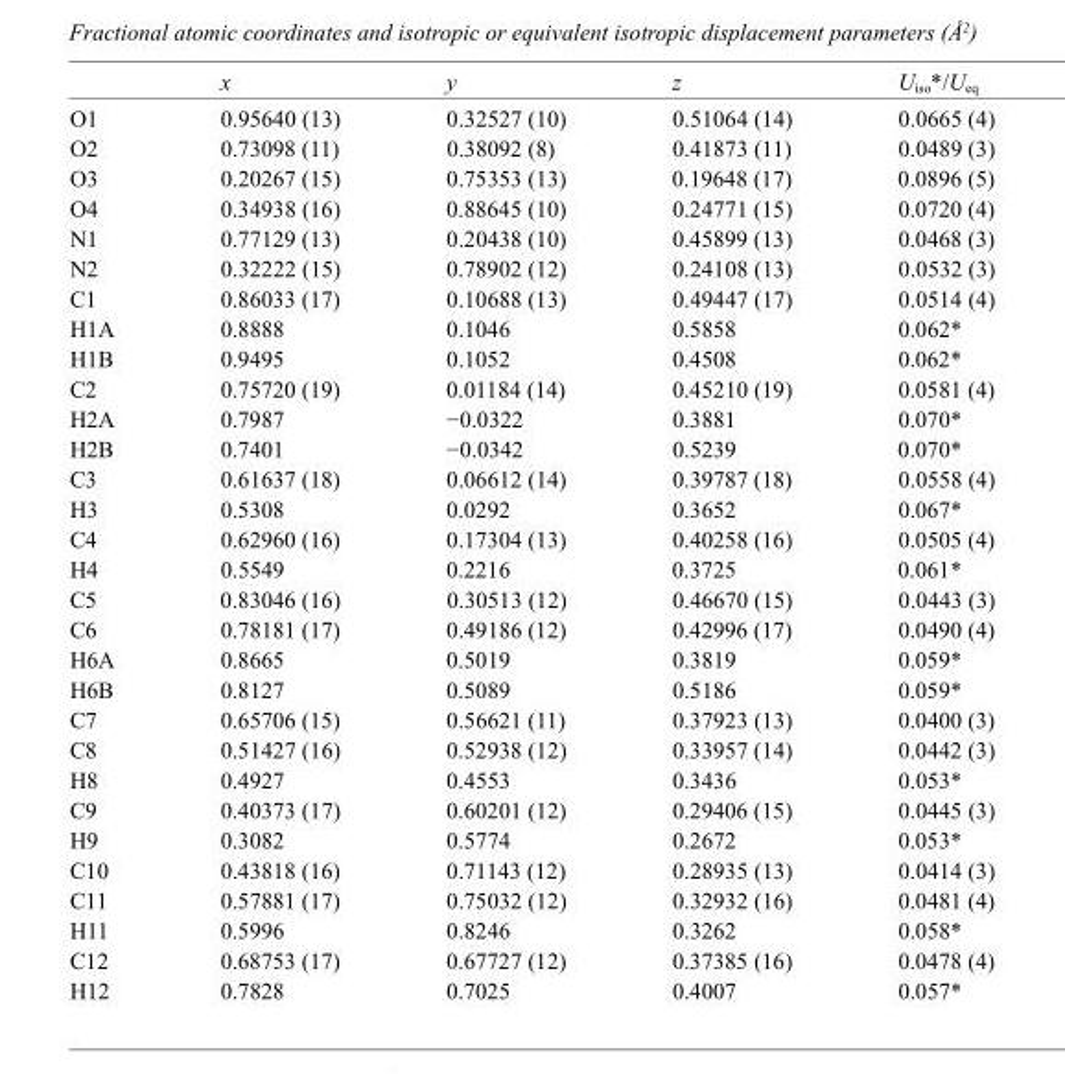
<table><thead><tr><td></td><td>x</td><td>y</td><td>z</td><td>U<sub>iso</sub>*/U<sub>eq</sub></td></tr></thead><tbody><tr><td>O1</td><td>0.95640 (13)</td><td>0.32527 (10)</td><td>0.51064 (14)</td><td>0.0665 (4)</td></tr><tr><td>O2</td><td>0.73098 (11)</td><td>0.38092 (8)</td><td>0.41873 (11)</td><td>0.0489 (3)</td></tr><tr><td>O3</td><td>0.20267 (15)</td><td>0.75353 (13)</td><td>0.19648 (17)</td><td>0.0896 (5)</td></tr><tr><td>O4</td><td>0.34938 (16)</td><td>0.88645 (10)</td><td>0.24771 (15)</td><td>0.0720 (4)</td></tr><tr><td>N1</td><td>0.77129 (13)</td><td>0.20438 (10)</td><td>0.45899 (13)</td><td>0.0468 (3)</td></tr><tr><td>N2</td><td>0.32222 (15)</td><td>0.78902 (12)</td><td>0.24108 (13)</td><td>0.0532 (3)</td></tr><tr><td>C1</td><td>0.86033 (17)</td><td>0.10688 (13)</td><td>0.49447 (17)</td><td>0.0514 (4)</td></tr><tr><td>H1A</td><td>0.8888</td><td>0.1046</td><td>0.5858</td><td>0.062*</td></tr><tr><td>H1B</td><td>0.9495</td><td>0.1052</td><td>0.4508</td><td>0.062*</td></tr><tr><td>C2</td><td>0.75720 (19)</td><td>0.01184 (14)</td><td>0.45210 (19)</td><td>0.0581 (4)</td></tr><tr><td>H2A</td><td>0.7987</td><td>−0.0322</td><td>0.3881</td><td>0.070*</td></tr><tr><td>H2B</td><td>0.7401</td><td>−0.0342</td><td>0.5239</td><td>0.070*</td></tr><tr><td>C3</td><td>0.61637 (18)</td><td>0.06612 (14)</td><td>0.39787 (18)</td><td>0.0558 (4)</td></tr><tr><td>H3</td><td>0.5308</td><td>0.0292</td><td>0.3652</td><td>0.067*</td></tr><tr><td>C4</td><td>0.62960 (16)</td><td>0.17304 (13)</td><td>0.40258 (16)</td><td>0.0505 (4)</td></tr><tr><td>H4</td><td>0.5549</td><td>0.2216</td><td>0.3725</td><td>0.061*</td></tr><tr><td>C5</td><td>0.83046 (16)</td><td>0.30513 (12)</td><td>0.46670 (15)</td><td>0.0443 (3)</td></tr><tr><td>C6</td><td>0.78181 (17)</td><td>0.49186 (12)</td><td>0.42996 (17)</td><td>0.0490 (4)</td></tr><tr><td>H6A</td><td>0.8665</td><td>0.5019</td><td>0.3819</td><td>0.059*</td></tr><tr><td>H6B</td><td>0.8127</td><td>0.5089</td><td>0.5186</td><td>0.059*</td></tr><tr><td>C7</td><td>0.65706 (15)</td><td>0.56621 (11)</td><td>0.37923 (13)</td><td>0.0400 (3)</td></tr><tr><td>C8</td><td>0.51427 (16)</td><td>0.52938 (12)</td><td>0.33957 (14)</td><td>0.0442 (3)</td></tr><tr><td>H8</td><td>0.4927</td><td>0.4553</td><td>0.3436</td><td>0.053*</td></tr><tr><td>C9</td><td>0.40373 (17)</td><td>0.60201 (12)</td><td>0.29406 (15)</td><td>0.0445 (3)</td></tr><tr><td>H9</td><td>0.3082</td><td>0.5774</td><td>0.2672</td><td>0.053*</td></tr><tr><td>C10</td><td>0.43818 (16)</td><td>0.71143 (12)</td><td>0.28935 (13)</td><td>0.0414 (3)</td></tr><tr><td>C11</td><td>0.57881 (17)</td><td>0.75032 (12)</td><td>0.32932 (16)</td><td>0.0481 (4)</td></tr><tr><td>H11</td><td>0.5996</td><td>0.8246</td><td>0.3262</td><td>0.058*</td></tr><tr><td>C12</td><td>0.68753 (17)</td><td>0.67727 (12)</td><td>0.37385 (16)</td><td>0.0478 (4)</td></tr><tr><td>H12</td><td>0.7828</td><td>0.7025</td><td>0.4007</td><td>0.057*</td></tr></tbody></table>